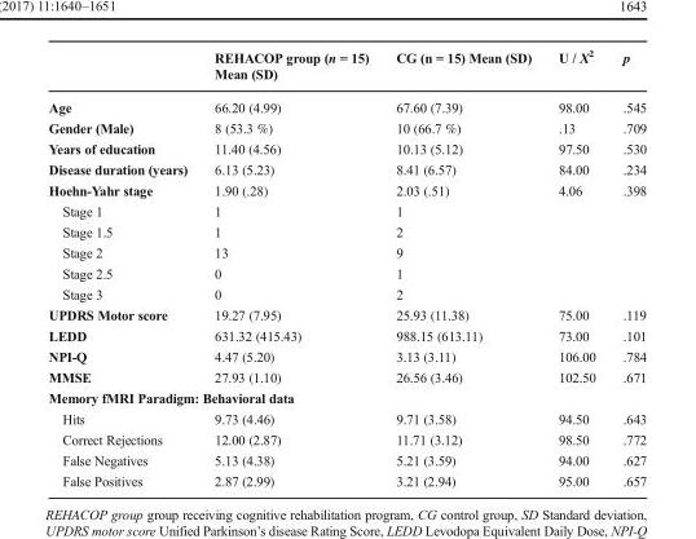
<table><thead><tr><td></td><td>REHACOP group (n = 15) Mean (SD)</td><td>CG (n = 15) Mean (SD)</td><td>U / X<sup>2</sup></td><td>p</td></tr></thead><tbody><tr><td>Age</td><td>66.20 (4.99)</td><td>67.60 (7.39)</td><td>98.00</td><td>.545</td></tr><tr><td>Gender (Male)</td><td>8 (53.3 %)</td><td>10 (66.7 %)</td><td>.13</td><td>.709</td></tr><tr><td>Years of education</td><td>11.40 (4.56)</td><td>10.13 (5.12)</td><td>97.50</td><td>.530</td></tr><tr><td>Disease duration (years)</td><td>6.13 (5.23)</td><td>8.41 (6.57)</td><td>84.00</td><td>.234</td></tr><tr><td>Hoehn-Yahr stage</td><td>1.90 (.28)</td><td>2.03 (.51)</td><td>4.06</td><td>.398</td></tr><tr><td>Stage 1</td><td>1</td><td>1</td><td></td><td></td></tr><tr><td>Stage 1.5</td><td>1</td><td>2</td><td></td><td></td></tr><tr><td>Stage 2</td><td>13</td><td>9</td><td></td><td></td></tr><tr><td>Stage 2.5</td><td>0</td><td>1</td><td></td><td></td></tr><tr><td>Stage 3</td><td>0</td><td>2</td><td></td><td></td></tr><tr><td>UPDRS Motor score</td><td>19.27 (7.95)</td><td>25.93 (11.38)</td><td>75.00</td><td>.119</td></tr><tr><td>LEDD</td><td>631.32 (415.43)</td><td>988.15 (613.11)</td><td>73.00</td><td>.101</td></tr><tr><td>NPI-Q</td><td>4.47 (5.20)</td><td>3.13 (3.11)</td><td>106.00</td><td>.784</td></tr><tr><td>MMSE</td><td>27.93 (1.10)</td><td>26.56 (3.46)</td><td>102.50</td><td>.671</td></tr><tr><td colspan="5">Memory fMRI Paradigm: Behavioral data</td></tr><tr><td>Hits</td><td>9.73 (4.46)</td><td>9.71 (3.58)</td><td>94.50</td><td>.643</td></tr><tr><td>Correct Rejections</td><td>12.00 (2.87)</td><td>11.71 (3.12)</td><td>98.50</td><td>.772</td></tr><tr><td>False Negatives</td><td>5.13 (4.38)</td><td>5.21 (3.59)</td><td>94.00</td><td>.627</td></tr><tr><td>False Positives</td><td>2.87 (2.99)</td><td>3.21 (2.94)</td><td>95.00</td><td>.657</td></tr></tbody></table>